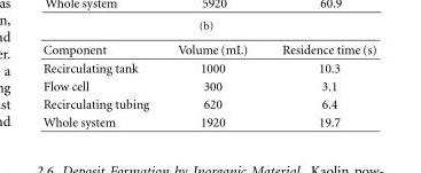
<table><thead><tr><td>Component</td><td>Volume (mL)</td><td>Residence time (s)</td></tr></thead><tbody><tr><td>Recirculating tank</td><td>1000</td><td>10.3</td></tr><tr><td>Flow cell</td><td>300</td><td>3.1</td></tr><tr><td>Recirculating tubing</td><td>620</td><td>6.4</td></tr><tr><td>Whole system</td><td>1920</td><td>19.7</td></tr></tbody></table>